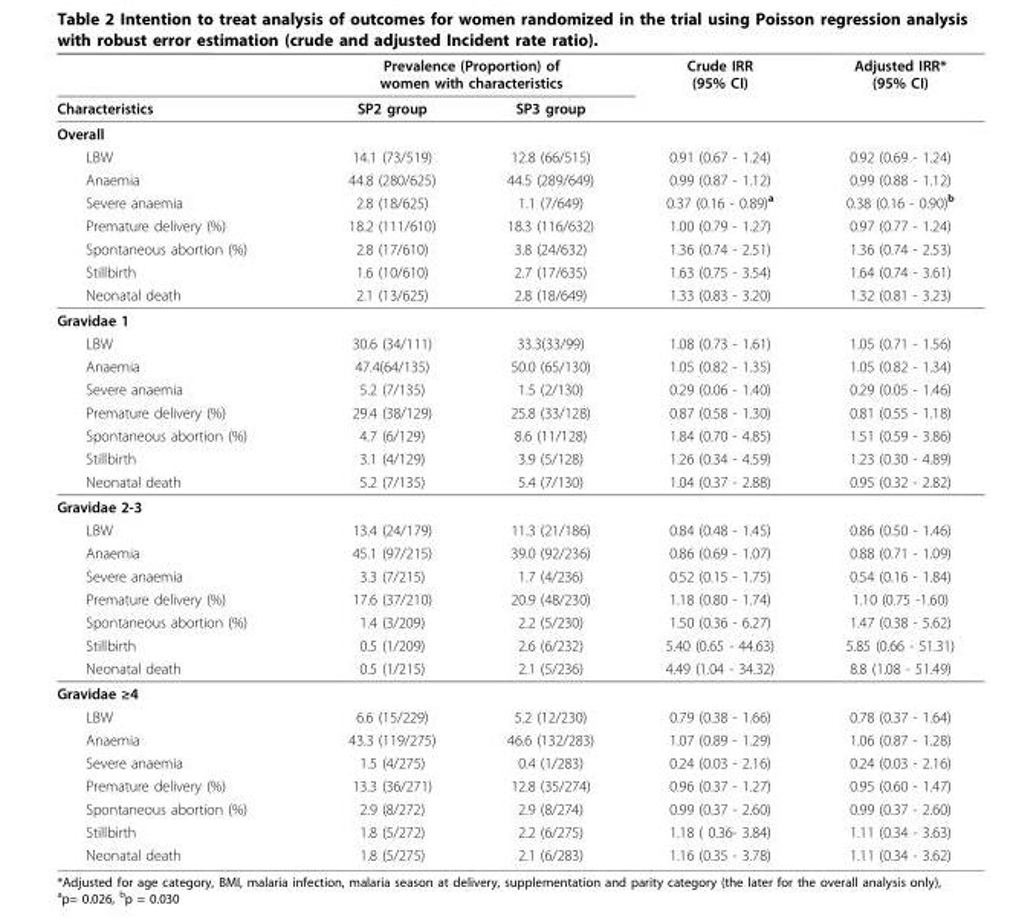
<table><thead><tr><td rowspan="2">Characteristics</td><td colspan="2">Prevalence (Proportion) of women with characteristics</td><td rowspan="2">Crude IRR (95% CI)</td><td rowspan="2">Adjusted IRR* (95% CI)</td></tr><tr><td>SP2 group</td><td>SP3 group</td></tr></thead><tbody><tr><td colspan="5">Overall</td></tr><tr><td>LBW</td><td>14.1 (73/519)</td><td>12.8 (66/515)</td><td>0.91 (0.67 - 1.24)</td><td>0.92 (0.69 - 1.24)</td></tr><tr><td>Anaemia</td><td>44.8 (280/625)</td><td>44.5 (289/649)</td><td>0.99 (0.87 - 1.12)</td><td>0.99 (0.88 - 1.12)</td></tr><tr><td>Severe anaemia</td><td>2.8 (18/625)</td><td>1.1 (7/649)</td><td>0.37 (0.16 - 0.89)<sup>a</sup></td><td>0.38 (0.16 - 0.90)<sup>b</sup></td></tr><tr><td>Premature delivery (%)</td><td>18.2 (111/610)</td><td>18.3 (116/632)</td><td>1.00 (0.79 - 1.27)</td><td>0.97 (0.77 - 1.24)</td></tr><tr><td>Spontaneous abortion (%)</td><td>2.8 (17/610)</td><td>3.8 (24/632)</td><td>1.36 (0.74 - 2.51)</td><td>1.36 (0.74 - 2.53)</td></tr><tr><td>Stillbirth</td><td>1.6 (10/610)</td><td>2.7 (17/635)</td><td>1.63 (0.75 - 3.54)</td><td>1.64 (0.74 - 3.61)</td></tr><tr><td>Neonatal death</td><td>2.1 (13/625)</td><td>2.8 (18/649)</td><td>1.33 (0.83 - 3.20)</td><td>1.32 (0.81 - 3.23)</td></tr><tr><td colspan="5">Gravidae 1</td></tr><tr><td>LBW</td><td>30.6 (34/111)</td><td>33.3(33/99)</td><td>1.08 (0.73 - 1.61)</td><td>1.05 (0.71 - 1.56)</td></tr><tr><td>Anaemia</td><td>47.4(64/135)</td><td>50.0 (65/130)</td><td>1.05 (0.82 - 1.35)</td><td>1.05 (0.82 - 1.34)</td></tr><tr><td>Severe anaemia</td><td>5.2 (7/135)</td><td>1.5 (2/130)</td><td>0.29 (0.06 - 1.40)</td><td>0.29 (0.05 - 1.46)</td></tr><tr><td>Premature delivery (%)</td><td>29.4 (38/129)</td><td>25.8 (33/128)</td><td>0.87 (0.58 - 1.30)</td><td>0.81 (0.55 - 1.18)</td></tr><tr><td>Spontaneous abortion (%)</td><td>4.7 (6/129)</td><td>8.6 (11/128)</td><td>1.84 (0.70 - 4.85)</td><td>1.51 (0.59 - 3.86)</td></tr><tr><td>Stillbirth</td><td>3.1 (4/129)</td><td>3.9 (5/128)</td><td>1.26 (0.34 - 4.59)</td><td>1.23 (0.30 - 4.89)</td></tr><tr><td>Neonatal death</td><td>5.2 (7/135)</td><td>5.4 (7/130)</td><td>1.04 (0.37 - 2.88)</td><td>0.95 (0.32 - 2.82)</td></tr><tr><td colspan="5">Gravidae 2-3</td></tr><tr><td>LBW</td><td>13.4 (24/179)</td><td>11.3 (21/186)</td><td>0.84 (0.48 - 1.45)</td><td>0.86 (0.50 - 1.46)</td></tr><tr><td>Anaemia</td><td>45.1 (97/215)</td><td>39.0 (92/236)</td><td>0.86 (0.69 - 1.07)</td><td>0.88 (0.71 - 1.09)</td></tr><tr><td>Severe anaemia</td><td>3.3 (7/215)</td><td>1.7 (4/236)</td><td>0.52 (0.15 - 1.75)</td><td>0.54 (0.16 - 1.84)</td></tr><tr><td>Premature delivery (%)</td><td>17.6 (37/210)</td><td>20.9 (48/230)</td><td>1.18 (0.80 - 1.74)</td><td>1.10 (0.75 -1.60)</td></tr><tr><td>Spontaneous abortion (%)</td><td>1.4 (3/209)</td><td>2.2 (5/230)</td><td>1.50 (0.36 - 6.27)</td><td>1.47 (0.38 - 5.62)</td></tr><tr><td>Stillbirth</td><td>0.5 (1/209)</td><td>2.6 (6/232)</td><td>5.40 (0.65 - 44.63)</td><td>5.85 (0.66 - 51.31)</td></tr><tr><td>Neonatal death</td><td>0.5 (1/215)</td><td>2.1 (5/236)</td><td>4.49 (1.04 - 34.32)</td><td>8.8 (1.08 - 51.49)</td></tr><tr><td colspan="5">Gravidae ≥4</td></tr><tr><td>LBW</td><td>6.6 (15/229)</td><td>5.2 (12/230)</td><td>0.79 (0.38 - 1.66)</td><td>0.78 (0.37 - 1.64)</td></tr><tr><td>Anaemia</td><td>43.3 (119/275)</td><td>46.6 (132/283)</td><td>1.07 (0.89 - 1.29)</td><td>1.06 (0.87 - 1.28)</td></tr><tr><td>Severe anaemia</td><td>1.5 (4/275)</td><td>0.4 (1/283)</td><td>0.24 (0.03 - 2.16)</td><td>0.24 (0.03 - 2.16)</td></tr><tr><td>Premature delivery (%)</td><td>13.3 (36/271)</td><td>12.8 (35/274)</td><td>0.96 (0.37 - 1.27)</td><td>0.95 (0.60 - 1.47)</td></tr><tr><td>Spontaneous abortion (%)</td><td>2.9 (8/272)</td><td>2.9 (8/274)</td><td>0.99 (0.37 - 2.60)</td><td>0.99 (0.37 - 2.60)</td></tr><tr><td>Stillbirth</td><td>1.8 (5/272)</td><td>2.2 (6/275)</td><td>1.18 ( 0.36- 3.84)</td><td>1.11 (0.34 - 3.63)</td></tr><tr><td>Neonatal death</td><td>1.8 (5/275)</td><td>2.1 (6/283)</td><td>1.16 (0.35 - 3.78)</td><td>1.11 (0.34 - 3.62)</td></tr></tbody></table>